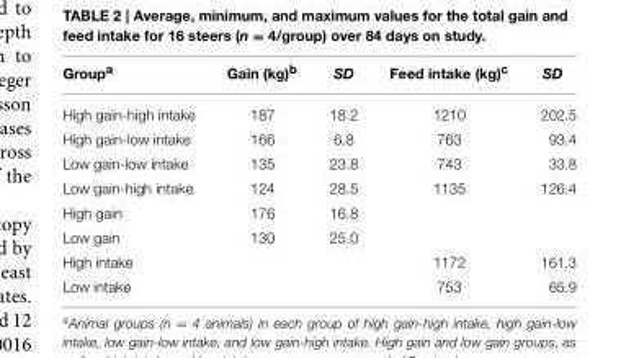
<table><thead><tr><td>Group<sup>a</sup></td><td>Gain (kg)<sup>b</sup></td><td>SD</td><td>Feed intake (kg)<sup>c</sup></td><td>SD</td></tr></thead><tbody><tr><td>High gain-high intake</td><td>187</td><td>18.2</td><td>1210</td><td>202.5</td></tr><tr><td>High gain-low intake</td><td>166</td><td>6.8</td><td>763</td><td>93.4</td></tr><tr><td>Low gain-low intake</td><td>135</td><td>23.8</td><td>743</td><td>33.8</td></tr><tr><td>Low gain-high intake</td><td>124</td><td>28.5</td><td>1135</td><td>126.4</td></tr><tr><td>High gain</td><td>176</td><td>16.8</td><td></td><td></td></tr><tr><td>Low gain</td><td>130</td><td>25.0</td><td></td><td></td></tr><tr><td>High intake</td><td></td><td></td><td>1172</td><td>161.3</td></tr><tr><td>Low intake</td><td></td><td></td><td>753</td><td>65.9</td></tr></tbody></table>